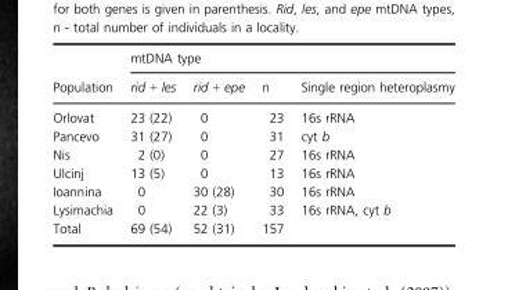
<table><thead><tr><td rowspan="2">Population</td><td colspan="4">mtDNA type</td></tr><tr><td>rid + les</td><td>rid + epe</td><td>n</td><td>Single region heteroplasmy</td></tr></thead><tbody><tr><td>Orlovat</td><td>23 (22)</td><td>0</td><td>23</td><td>16s rRNA</td></tr><tr><td>Pancevo</td><td>31 (27)</td><td>0</td><td>31</td><td>cyt b</td></tr><tr><td>Nis</td><td>2 (0)</td><td>0</td><td>27</td><td>16s rRNA</td></tr><tr><td>Ulcinj</td><td>13 (5)</td><td>0</td><td>13</td><td>16s rRNA</td></tr><tr><td>Ioannina</td><td>0</td><td>30 (28)</td><td>30</td><td>16s rRNA</td></tr><tr><td>Lysimachia</td><td>0</td><td>22 (3)</td><td>33</td><td>16s rRNA, cyt b</td></tr><tr><td>Total</td><td>69 (54)</td><td>52 (31)</td><td>157</td><td></td></tr></tbody></table>